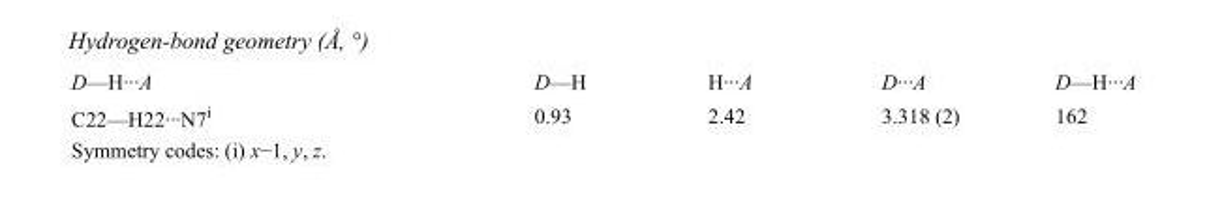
<table><tbody><tr><td>D—H···A</td><td>D—H</td><td>H···A</td><td>D···A</td><td>D—H···A</td></tr><tr><td>C22—H22···N7<sup>i</sup></td><td>0.93</td><td>2.42</td><td>3.318 (2)</td><td>162</td></tr></tbody></table>